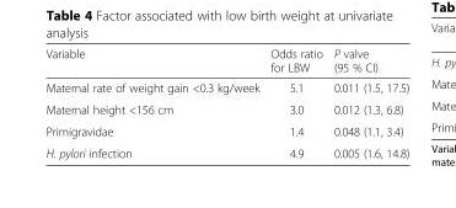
<table><thead><tr><td>Variable</td><td>Odds ratio for LBW</td><td>P valve (95 % CI)</td></tr></thead><tbody><tr><td>Maternal rate of weight gain &lt;0.3 kg/week</td><td>5.1</td><td>0.011 (1.5, 17.5)</td></tr><tr><td>Maternal height &lt;156 cm</td><td>3.0</td><td>0.012 (1.3, 6.8)</td></tr><tr><td>Primigravidae</td><td>1.4</td><td>0.048 (1.1, 3.4)</td></tr><tr><td>H. pylori infection</td><td>4.9</td><td>0.005 (1.6, 14.8)</td></tr></tbody></table>